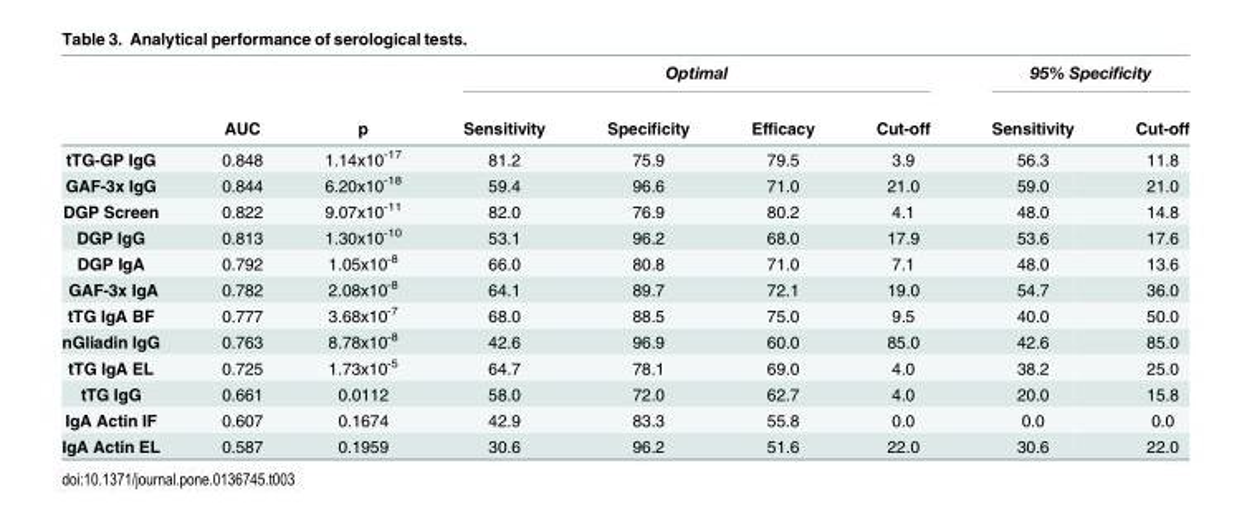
<table><thead><tr><td rowspan="2"></td><td rowspan="2">AUC</td><td rowspan="2">p</td><td colspan="4">Optimal</td><td colspan="2">95% Specificity</td></tr><tr><td>Sensitivity</td><td>Specificity</td><td>Efficacy</td><td>Cut-off</td><td>Sensitivity</td><td>Cut-off</td></tr></thead><tbody><tr><td>tTG-GP IgG</td><td>0.848</td><td>1.14x10<sup>-17</sup></td><td>81.2</td><td>75.9</td><td>79.5</td><td>3.9</td><td>56.3</td><td>11.8</td></tr><tr><td>GAF-3x IgG</td><td>0.844</td><td>6.20x10<sup>-18</sup></td><td>59.4</td><td>96.6</td><td>71.0</td><td>21.0</td><td>59.0</td><td>21.0</td></tr><tr><td>DGP Screen</td><td>0.822</td><td>9.07x10<sup>-11</sup></td><td>82.0</td><td>76.9</td><td>80.2</td><td>4.1</td><td>48.0</td><td>14.8</td></tr><tr><td>DGP IgG</td><td>0.813</td><td>1.30x10<sup>-10</sup></td><td>53.1</td><td>96.2</td><td>68.0</td><td>17.9</td><td>53.6</td><td>17.6</td></tr><tr><td>DGP IgA</td><td>0.792</td><td>1.05x10<sup>-8</sup></td><td>66.0</td><td>80.8</td><td>71.0</td><td>7.1</td><td>48.0</td><td>13.6</td></tr><tr><td>GAF-3x IgA</td><td>0.782</td><td>2.08x10<sup>-8</sup></td><td>64.1</td><td>89.7</td><td>72.1</td><td>19.0</td><td>54.7</td><td>36.0</td></tr><tr><td>tTG IgA BF</td><td>0.777</td><td>3.68x10<sup>-7</sup></td><td>68.0</td><td>88.5</td><td>75.0</td><td>9.5</td><td>40.0</td><td>50.0</td></tr><tr><td>nGliadin IgG</td><td>0.763</td><td>8.78x10<sup>-8</sup></td><td>42.6</td><td>96.9</td><td>60.0</td><td>85.0</td><td>42.6</td><td>85.0</td></tr><tr><td>tTG IgA EL</td><td>0.725</td><td>1.73x10<sup>-5</sup></td><td>64.7</td><td>78.1</td><td>69.0</td><td>4.0</td><td>38.2</td><td>25.0</td></tr><tr><td>tTG IgG</td><td>0.661</td><td>0.0112</td><td>58.0</td><td>72.0</td><td>62.7</td><td>4.0</td><td>20.0</td><td>15.8</td></tr><tr><td>IgA Actin IF</td><td>0.607</td><td>0.1674</td><td>42.9</td><td>83.3</td><td>55.8</td><td>0.0</td><td>0.0</td><td>0.0</td></tr><tr><td>IgA Actin EL</td><td>0.587</td><td>0.1959</td><td>30.6</td><td>96.2</td><td>51.6</td><td>22.0</td><td>30.6</td><td>22.0</td></tr></tbody></table>